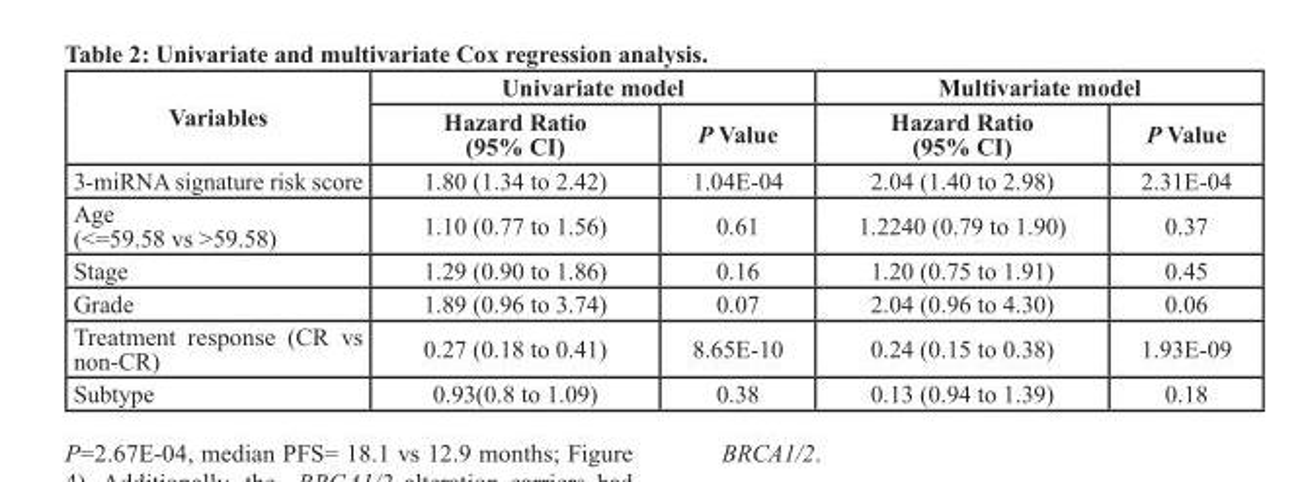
<table><thead><tr><td rowspan="2">Variables</td><td colspan="2">Univariate model</td><td colspan="2">Multivariate model</td></tr><tr><td>Hazard Ratio (95% CI)</td><td>P Value</td><td>Hazard Ratio (95% CI)</td><td>P Value</td></tr></thead><tbody><tr><td>3-miRNA signature risk score</td><td>1.80 (1.34 to 2.42)</td><td>1.04E-04</td><td>2.04 (1.40 to 2.98)</td><td>2.31E-04</td></tr><tr><td>Age (&lt;=59.58 vs &gt;59.58)</td><td>1.10 (0.77 to 1.56)</td><td>0.61</td><td>1.2240 (0.79 to 1.90)</td><td>0.37</td></tr><tr><td>Stage</td><td>1.29 (0.90 to 1.86)</td><td>0.16</td><td>1.20 (0.75 to 1.91)</td><td>0.45</td></tr><tr><td>Grade</td><td>1.89 (0.96 to 3.74)</td><td>0.07</td><td>2.04 (0.96 to 4.30)</td><td>0.06</td></tr><tr><td>Treatment response (CR vs non-CR)</td><td>0.27 (0.18 to 0.41)</td><td>8.65E-10</td><td>0.24 (0.15 to 0.38)</td><td>1.93E-09</td></tr><tr><td>Subtype</td><td>0.93(0.8 to 1.09)</td><td>0.38</td><td>0.13 (0.94 to 1.39)</td><td>0.18</td></tr></tbody></table>